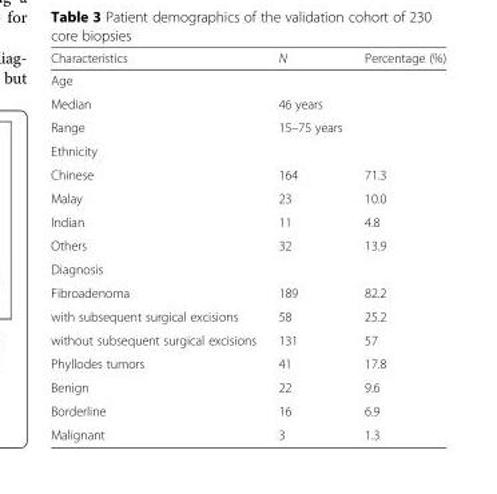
<table><thead><tr><td>Characteristics</td><td>N</td><td>Percentage (%)</td></tr></thead><tbody><tr><td colspan="3">Age</td></tr><tr><td>Median</td><td>46 years</td><td></td></tr><tr><td>Range</td><td>15–75 years</td><td></td></tr><tr><td colspan="3">Ethnicity</td></tr><tr><td>Chinese</td><td>164</td><td>71.3</td></tr><tr><td>Malay</td><td>23</td><td>10.0</td></tr><tr><td>Indian</td><td>11</td><td>4.8</td></tr><tr><td>Others</td><td>32</td><td>13.9</td></tr><tr><td colspan="3">Diagnosis</td></tr><tr><td>Fibroadenoma</td><td>189</td><td>82.2</td></tr><tr><td>with subsequent surgical excisions</td><td>58</td><td>25.2</td></tr><tr><td>without subsequent surgical excisions</td><td>131</td><td>57</td></tr><tr><td>Phyllodes tumors</td><td>41</td><td>17.8</td></tr><tr><td>Benign</td><td>22</td><td>9.6</td></tr><tr><td>Borderline</td><td>16</td><td>6.9</td></tr><tr><td>Malignant</td><td>3</td><td>1.3</td></tr></tbody></table>